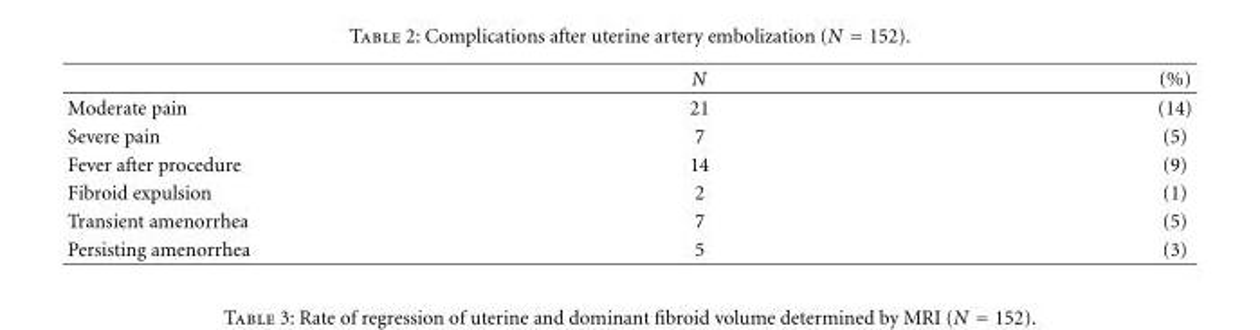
<table><thead><tr><td></td><td>N</td><td>(%)</td></tr></thead><tbody><tr><td>Moderate pain</td><td>21</td><td>(14)</td></tr><tr><td>Severe pain</td><td>7</td><td>(5)</td></tr><tr><td>Fever after procedure</td><td>14</td><td>(9)</td></tr><tr><td>Fibroid expulsion</td><td>2</td><td>(1)</td></tr><tr><td>Transient amenorrhea</td><td>7</td><td>(5)</td></tr><tr><td>Persisting amenorrhea</td><td>5</td><td>(3)</td></tr></tbody></table>